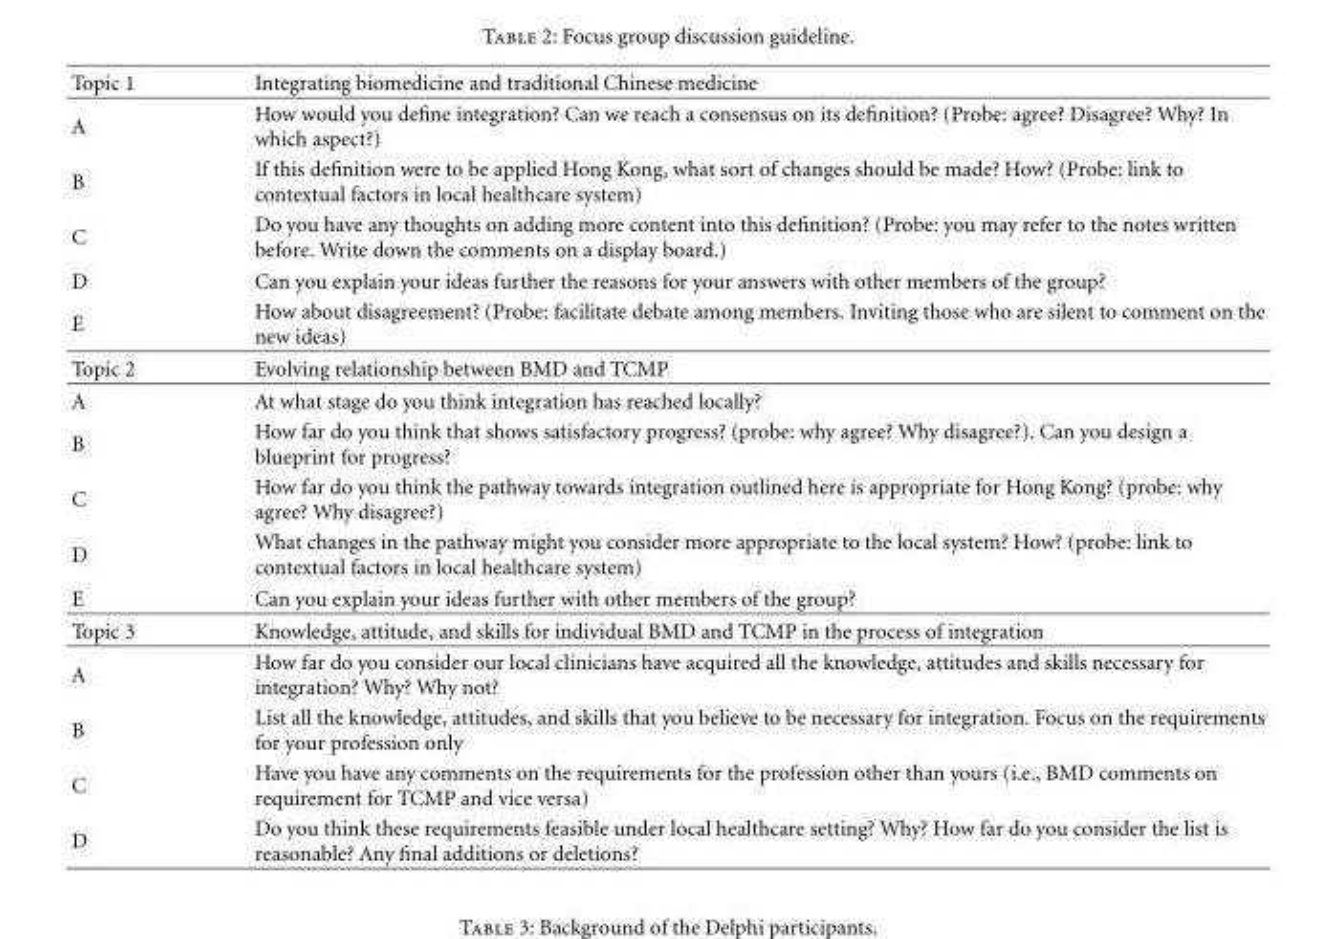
<table><thead><tr><td>Topic 1</td><td>Integrating biomedicine and traditional Chinese medicine</td></tr></thead><tbody><tr><td>A</td><td>How would you define integration? Can we reach a consensus on its definition? (Probe: agree? Disagree? Why? In which aspect?)</td></tr><tr><td>B</td><td>If this definition were to be applied Hong Kong, what sort of changes should be made? How? (Probe: link to contextual factors in local healthcare system)</td></tr><tr><td>C</td><td>Do you have any thoughts on adding more content into this definition? (Probe: you may refer to the notes written before. Write down the comments on a display board.)</td></tr><tr><td>D</td><td>Can you explain your ideas further the reasons for your answers with other members of the group?</td></tr><tr><td>E</td><td>How about disagreement? (Probe: facilitate debate among members. Inviting those who are silent to comment on the new ideas)</td></tr><tr><td>Topic 2</td><td>Evolving relationship between BMD and TCMP</td></tr><tr><td>A</td><td>At what stage do you think integration has reached locally?</td></tr><tr><td>B</td><td>How far do you think that shows satisfactory progress? (probe: why agree? Why disagree?). Can you design a blueprint for progress?</td></tr><tr><td>C</td><td>How far do you think the pathway towards integration outlined here is appropriate for Hong Kong? (probe: why agree? Why disagree?)</td></tr><tr><td>D</td><td>What changes in the pathway might you consider more appropriate to the local system? How? (probe: link to contextual factors in local healthcare system)</td></tr><tr><td>E</td><td>Can you explain your ideas further with other members of the group?</td></tr><tr><td>Topic 3</td><td>Knowledge, attitude, and skills for individual BMD and TCMP in the process of integration</td></tr><tr><td>A</td><td>How far do you consider our local clinicians have acquired all the knowledge, attitudes and skills necessary for integration? Why? Why not?</td></tr><tr><td>B</td><td>List all the knowledge, attitudes, and skills that you believe to be necessary for integration. Focus on the requirements for your profession only</td></tr><tr><td>C</td><td>Have you have any comments on the requirements for the profession other than yours (i.e., BMD comments on requirement for TCMP and vice versa)</td></tr><tr><td>D</td><td>Do you think these requirements feasible under local healthcare setting? Why? How far do you consider the list is reasonable? Any final additions or deletions?</td></tr></tbody></table>